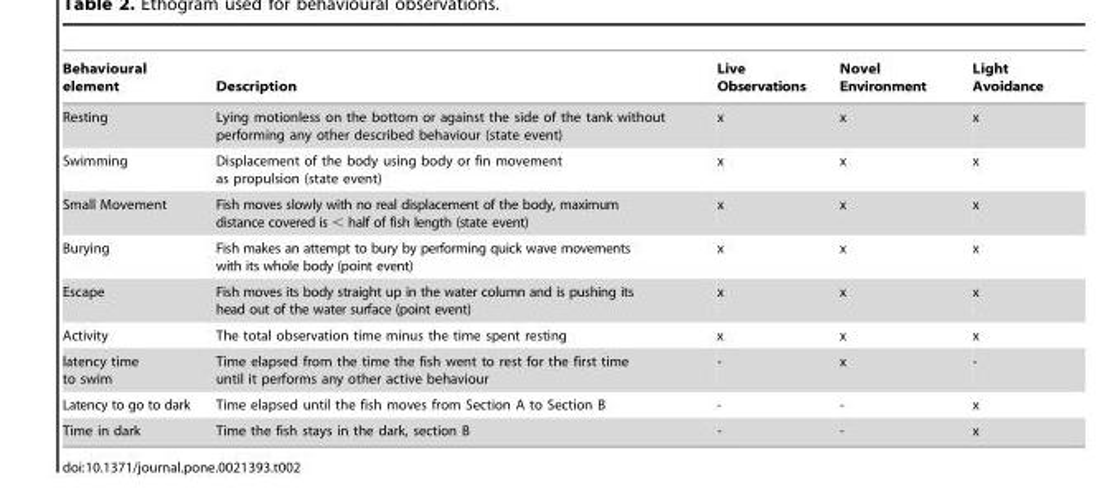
<table><thead><tr><td>Behavioural element</td><td>Description</td><td>Live Observations</td><td>Novel Environment</td><td>Light Avoidance</td></tr></thead><tbody><tr><td>Resting</td><td>Lying motionless on the bottom or against the side of the tank without performing any other described behaviour (state event)</td><td>x</td><td>x</td><td>x</td></tr><tr><td>Swimming</td><td>Displacement of the body using body or fin movement as propulsion (state event)</td><td>x</td><td>x</td><td>x</td></tr><tr><td>Small Movement</td><td>Fish moves slowly with no real displacement of the body, maximum distance covered is &lt; half of fish length (state event)</td><td>x</td><td>x</td><td>x</td></tr><tr><td>Burying</td><td>Fish makes an attempt to bury by performing quick wave movements with its whole body (point event)</td><td>x</td><td>x</td><td>x</td></tr><tr><td>Escape</td><td>Fish moves its body straight up in the water column and is pushing its head out of the water surface (point event)</td><td>x</td><td>x</td><td>x</td></tr><tr><td>Activity</td><td>The total observation time minus the time spent resting</td><td>x</td><td>x</td><td>x</td></tr><tr><td>latency time to swim</td><td>Time elapsed from the time the fish went to rest for the first time until it performs any other active behaviour</td><td>-</td><td>x</td><td>-</td></tr><tr><td>Latency to go to dark</td><td>Time elapsed until the fish moves from Section A to Section B</td><td>-</td><td>-</td><td>x</td></tr><tr><td>Time in dark</td><td>Time the fish stays in the dark, section B</td><td>-</td><td>-</td><td>x</td></tr></tbody></table>